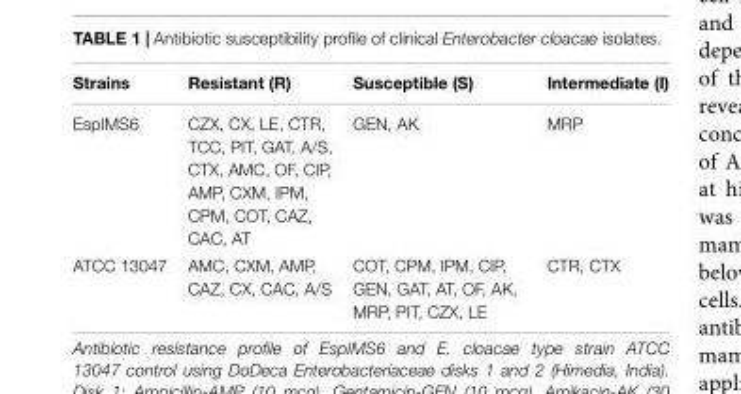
<table><thead><tr><td>Strains</td><td>Resistant (R)</td><td>Susceptible (S)</td><td>Intermediate (I)</td></tr></thead><tbody><tr><td>EspIMS6</td><td>CZX, CX, LE, CTR, TCC, PIT, GAT, A/S, CTX, AMC, OF, CIP, AMP, CXM, IPM, CPM, COT, CAZ, CAC, AT</td><td>GEN, AK</td><td>MRP</td></tr><tr><td>ATCC 13047</td><td>AMC, CXM, AMP, CAZ, CX, CAC, A/S</td><td>COT, CPM, IPM, CIP, GEN, GAT, AT, OF, AK, MRP, PIT, CZX, LE</td><td>CTR, CTX</td></tr></tbody></table>